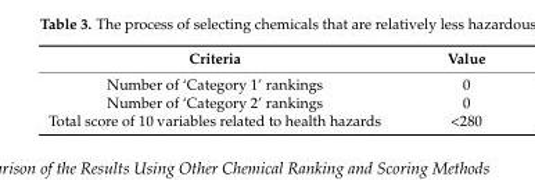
<table><thead><tr><td>Criteria</td><td>Value</td></tr></thead><tbody><tr><td>Number of ‘Category 1’ rankings</td><td>0</td></tr><tr><td>Number of ‘Category 2’ rankings</td><td>0</td></tr><tr><td>Total score of 10 variables related to health hazards</td><td>&lt;280</td></tr></tbody></table>